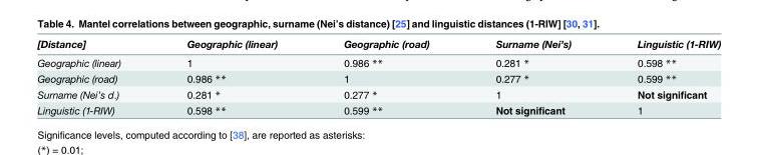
<table><thead><tr><td>[Distance]</td><td>Geographic (linear)</td><td>Geographic (road)</td><td>Surname (Nei’s)</td><td>Linguistic (1-RIW)</td></tr></thead><tbody><tr><td>Geographic (linear)</td><td>1</td><td>0.986 **</td><td>0.281 *</td><td>0.598 **</td></tr><tr><td>Geographic (road)</td><td>0.986 **</td><td>1</td><td>0.277 *</td><td>0.599 **</td></tr><tr><td>Surname (Nei’s d.)</td><td>0.281 *</td><td>0.277 *</td><td>1</td><td>Not significant</td></tr><tr><td>Linguistic (1-RIW)</td><td>0.598 **</td><td>0.599 **</td><td>Not significant</td><td>1</td></tr></tbody></table>